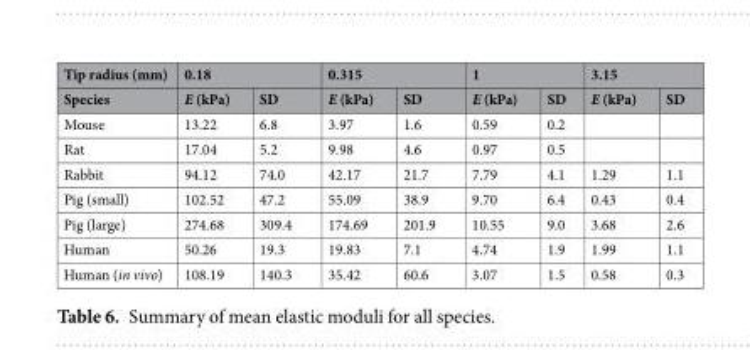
<table><thead><tr><td rowspan="2">Tip radius (mm) Species</td><td colspan="2">0.18</td><td colspan="2">0.315</td><td colspan="2">1</td><td colspan="2">3.15</td></tr><tr><td>E (kPa)</td><td>SD</td><td>E (kPa)</td><td>SD</td><td>E (kPa)</td><td>SD</td><td>E (kPa)</td><td>SD</td></tr></thead><tbody><tr><td>Mouse</td><td>13.22</td><td>6.8</td><td>3.97</td><td>1.6</td><td>0.59</td><td>0.2</td><td></td><td></td></tr><tr><td>Rat</td><td>17.04</td><td>5.2</td><td>9.98</td><td>4.6</td><td>0.97</td><td>0.5</td><td></td><td></td></tr><tr><td>Rabbit</td><td>94.12</td><td>74.0</td><td>42.17</td><td>21.7</td><td>7.79</td><td>4.1</td><td>1.29</td><td>1.1</td></tr><tr><td>Pig (small)</td><td>102.52</td><td>47.2</td><td>55.09</td><td>38.9</td><td>9.70</td><td>6.4</td><td>0.43</td><td>0.4</td></tr><tr><td>Pig (large)</td><td>274.68</td><td>309.4</td><td>174.69</td><td>201.9</td><td>10.55</td><td>9.0</td><td>3.68</td><td>2.6</td></tr><tr><td>Human</td><td>50.26</td><td>19.3</td><td>19.83</td><td>7.1</td><td>4.74</td><td>1.9</td><td>1.99</td><td>1.1</td></tr><tr><td>Human (in vivo)</td><td>108.19</td><td>140.3</td><td>35.42</td><td>60.6</td><td>3.07</td><td>1.5</td><td>0.58</td><td>0.3</td></tr></tbody></table>